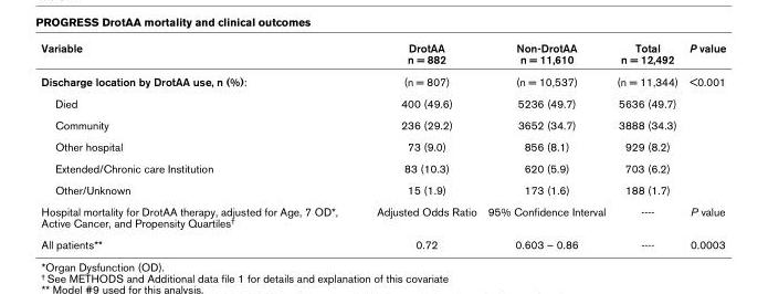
<table><thead><tr><td>Variable</td><td>DrotAA n = 882</td><td>Non-DrotAA n = 11,610</td><td>Total n = 12,492</td><td>P value</td></tr></thead><tbody><tr><td>Discharge location by DrotAA use, n (%):</td><td>(n = 807)</td><td>(n = 10,537)</td><td>(n = 11,344)</td><td>&lt;0.001</td></tr><tr><td>Died</td><td>400 (49.6)</td><td>5236 (49.7)</td><td>5636 (49.7)</td><td></td></tr><tr><td>Community</td><td>236 (29.2)</td><td>3652 (34.7)</td><td>3888 (34.3)</td><td></td></tr><tr><td>Other hospital</td><td>73 (9.0)</td><td>856 (8.1)</td><td>929 (8.2)</td><td></td></tr><tr><td>Extended/Chronic care Institution</td><td>83 (10.3)</td><td>620 (5.9)</td><td>703 (6.2)</td><td></td></tr><tr><td>Other/Unknown</td><td>15 (1.9)</td><td>173 (1.6)</td><td>188 (1.7)</td><td></td></tr><tr><td>Hospital mortality for DrotAA therapy, adjusted for Age, 7 OD*, Active Cancer, and Propensity Quartiles<sup>†</sup></td><td>Adjusted Odds Ratio</td><td>95% Confidence Interval</td><td>----</td><td>P value</td></tr><tr><td>All patients**</td><td>0.72</td><td>0.603 – 0.86</td><td>----</td><td>0.0003</td></tr></tbody></table>